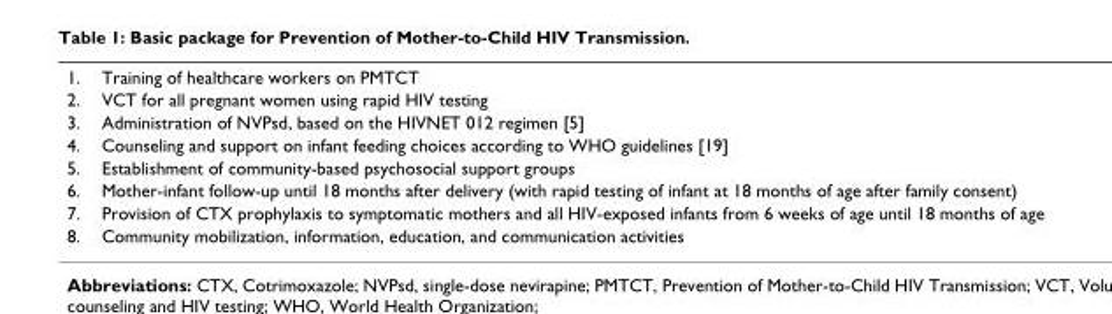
<table><tbody><tr><td>1.</td><td>Training of healthcare workers on PMTCT</td></tr><tr><td>2.</td><td>VCT for all pregnant women using rapid HIV testing</td></tr><tr><td>3.</td><td>Administration of NVPsd, based on the HIVNET 012 regimen [5]</td></tr><tr><td>4.</td><td>Counseling and support on infant feeding choices according to WHO guidelines [19]</td></tr><tr><td>5.</td><td>Establishment of community-based psychosocial support groups</td></tr><tr><td>6.</td><td>Mother-infant follow-up until 18 months after delivery (with rapid testing of infant at 18 months of age after family consent)</td></tr><tr><td>7.</td><td>Provision of CTX prophylaxis to symptomatic mothers and all HIV-exposed infants from 6 weeks of age until 18 months of age</td></tr><tr><td>8.</td><td>Community mobilization, information, education, and communication activities</td></tr></tbody></table>